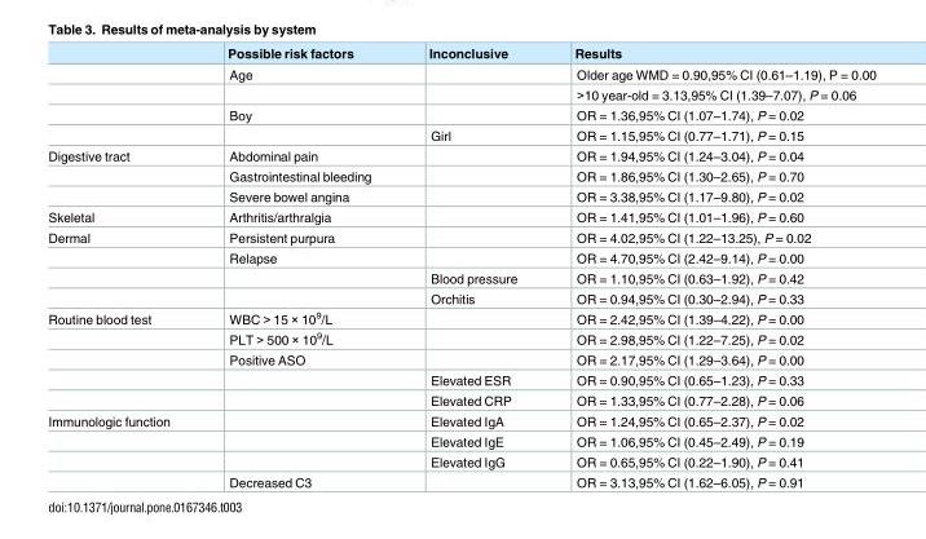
<table><thead><tr><td></td><td>Possible risk factors</td><td>Inconclusive</td><td>Results</td></tr></thead><tbody><tr><td></td><td>Age</td><td></td><td>Older age WMD = 0.90,95% CI (0.61–1.19), P = 0.00</td></tr><tr><td></td><td></td><td></td><td>&gt;10 year-old = 3.13,95% CI (1.39–7.07), P = 0.06</td></tr><tr><td></td><td>Boy</td><td></td><td>OR = 1.36,95% CI (1.07–1.74), P = 0.02</td></tr><tr><td></td><td></td><td>Girl</td><td>OR = 1.15,95% CI (0.77–1.71), P = 0.15</td></tr><tr><td rowspan="3">Digestive tract</td><td>Abdominal pain</td><td></td><td>OR = 1.94,95% CI (1.24–3.04), P = 0.04</td></tr><tr><td>Gastrointestinal bleeding</td><td></td><td>OR = 1.86,95% CI (1.30–2.65), P = 0.70</td></tr><tr><td>Severe bowel angina</td><td></td><td>OR = 3.38,95% CI (1.17–9.80), P = 0.02</td></tr><tr><td>Skeletal</td><td>Arthritis/arthralgia</td><td></td><td>OR = 1.41,95% CI (1.01–1.96), P = 0.60</td></tr><tr><td rowspan="4">Dermal</td><td>Persistent purpura</td><td></td><td>OR = 4.02,95% CI (1.22–13.25), P = 0.02</td></tr><tr><td>Relapse</td><td></td><td>OR = 4.70,95% CI (2.42–9.14), P = 0.00</td></tr><tr><td></td><td>Blood pressure</td><td>OR = 1.10,95% CI (0.63–1.92), P = 0.42</td></tr><tr><td></td><td>Orchitis</td><td>OR = 0.94,95% CI (0.30–2.94), P = 0.33</td></tr><tr><td rowspan="5">Routine blood test</td><td>WBC &gt; 15 × 10<sup>9</sup>/L</td><td></td><td>OR = 2.42,95% CI (1.39–4.22), P = 0.00</td></tr><tr><td>PLT &gt; 500 × 10<sup>9</sup>/L</td><td></td><td>OR = 2.98,95% CI (1.22–7.25), P = 0.02</td></tr><tr><td>Positive ASO</td><td></td><td>OR = 2.17,95% CI (1.29–3.64), P = 0.00</td></tr><tr><td></td><td>Elevated ESR</td><td>OR = 0.90,95% CI (0.65–1.23), P = 0.33</td></tr><tr><td></td><td>Elevated CRP</td><td>OR = 1.33,95% CI (0.77–2.28), P = 0.06</td></tr><tr><td rowspan="4">Immunologic function</td><td></td><td>Elevated IgA</td><td>OR = 1.24,95% CI (0.65–2.37), P = 0.02</td></tr><tr><td></td><td>Elevated IgE</td><td>OR = 1.06,95% CI (0.45–2.49), P = 0.19</td></tr><tr><td></td><td>Elevated IgG</td><td>OR = 0.65,95% CI (0.22–1.90), P = 0.41</td></tr><tr><td>Decreased C3</td><td></td><td>OR = 3.13,95% CI (1.62–6.05), P = 0.91</td></tr></tbody></table>